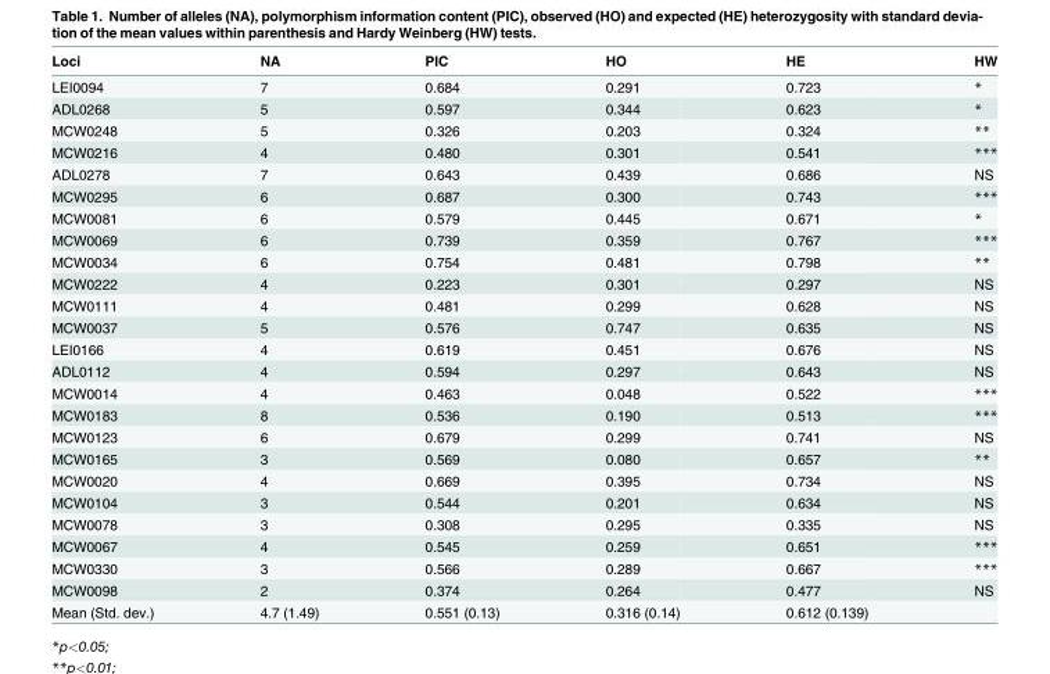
<table><thead><tr><td>Loci</td><td>NA</td><td>PIC</td><td>HO</td><td>HE</td><td>HW</td></tr></thead><tbody><tr><td>LEI0094</td><td>7</td><td>0.684</td><td>0.291</td><td>0.723</td><td>*</td></tr><tr><td>ADL0268</td><td>5</td><td>0.597</td><td>0.344</td><td>0.623</td><td>*</td></tr><tr><td>MCW0248</td><td>5</td><td>0.326</td><td>0.203</td><td>0.324</td><td>**</td></tr><tr><td>MCW0216</td><td>4</td><td>0.480</td><td>0.301</td><td>0.541</td><td>***</td></tr><tr><td>ADL0278</td><td>7</td><td>0.643</td><td>0.439</td><td>0.686</td><td>NS</td></tr><tr><td>MCW0295</td><td>6</td><td>0.687</td><td>0.300</td><td>0.743</td><td>***</td></tr><tr><td>MCW0081</td><td>6</td><td>0.579</td><td>0.445</td><td>0.671</td><td>*</td></tr><tr><td>MCW0069</td><td>6</td><td>0.739</td><td>0.359</td><td>0.767</td><td>***</td></tr><tr><td>MCW0034</td><td>6</td><td>0.754</td><td>0.481</td><td>0.798</td><td>**</td></tr><tr><td>MCW0222</td><td>4</td><td>0.223</td><td>0.301</td><td>0.297</td><td>NS</td></tr><tr><td>MCW0111</td><td>4</td><td>0.481</td><td>0.299</td><td>0.628</td><td>NS</td></tr><tr><td>MCW0037</td><td>5</td><td>0.576</td><td>0.747</td><td>0.635</td><td>NS</td></tr><tr><td>LEI0166</td><td>4</td><td>0.619</td><td>0.451</td><td>0.676</td><td>NS</td></tr><tr><td>ADL0112</td><td>4</td><td>0.594</td><td>0.297</td><td>0.643</td><td>NS</td></tr><tr><td>MCW0014</td><td>4</td><td>0.463</td><td>0.048</td><td>0.522</td><td>***</td></tr><tr><td>MCW0183</td><td>8</td><td>0.536</td><td>0.190</td><td>0.513</td><td>***</td></tr><tr><td>MCW0123</td><td>6</td><td>0.679</td><td>0.299</td><td>0.741</td><td>NS</td></tr><tr><td>MCW0165</td><td>3</td><td>0.569</td><td>0.080</td><td>0.657</td><td>**</td></tr><tr><td>MCW0020</td><td>4</td><td>0.669</td><td>0.395</td><td>0.734</td><td>NS</td></tr><tr><td>MCW0104</td><td>3</td><td>0.544</td><td>0.201</td><td>0.634</td><td>NS</td></tr><tr><td>MCW0078</td><td>3</td><td>0.308</td><td>0.295</td><td>0.335</td><td>NS</td></tr><tr><td>MCW0067</td><td>4</td><td>0.545</td><td>0.259</td><td>0.651</td><td>***</td></tr><tr><td>MCW0330</td><td>3</td><td>0.566</td><td>0.289</td><td>0.667</td><td>***</td></tr><tr><td>MCW0098</td><td>2</td><td>0.374</td><td>0.264</td><td>0.477</td><td>NS</td></tr><tr><td>Mean (Std. dev.)</td><td>4.7 (1.49)</td><td>0.551 (0.13)</td><td>0.316 (0.14)</td><td>0.612 (0.139)</td><td></td></tr></tbody></table>